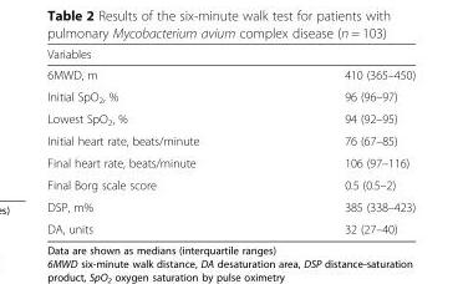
<table><thead><tr><td colspan="2">Variables</td></tr><tr><td>6MWD, m</td><td>410 (365–450)</td></tr></thead><tbody><tr><td>Initial SpO<sub>2</sub>, %</td><td>96 (96–97)</td></tr><tr><td>Lowest SpO<sub>2</sub>, %</td><td>94 (92–95)</td></tr><tr><td>Initial heart rate, beats/minute</td><td>76 (67–85)</td></tr><tr><td>Final heart rate, beats/minute</td><td>106 (97–116)</td></tr><tr><td>Final Borg scale score</td><td>0.5 (0.5–2)</td></tr><tr><td>DSP, m%</td><td>385 (338–423)</td></tr><tr><td>DA, units</td><td>32 (27–40)</td></tr></tbody></table>